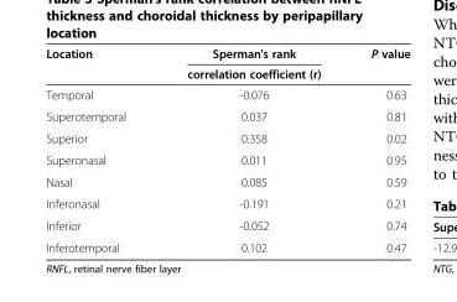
<table><thead><tr><td rowspan="2">Location</td><td rowspan="2">Sperman&#x27;s rank correlation coefficient (r)</td><td rowspan="2">P value</td></tr><tr></tr></thead><tbody><tr><td>Temporal</td><td>-0.076</td><td>0.63</td></tr><tr><td>Superotemporal</td><td>0.037</td><td>0.81</td></tr><tr><td>Superior</td><td>0.358</td><td>0.02</td></tr><tr><td>Superonasal</td><td>0.011</td><td>0.95</td></tr><tr><td>Nasal</td><td>0.085</td><td>0.59</td></tr><tr><td>Inferonasal</td><td>-0.191</td><td>0.21</td></tr><tr><td>Inferior</td><td>-0.052</td><td>0.74</td></tr><tr><td>Inferotemporal</td><td>0.102</td><td>0.47</td></tr></tbody></table>